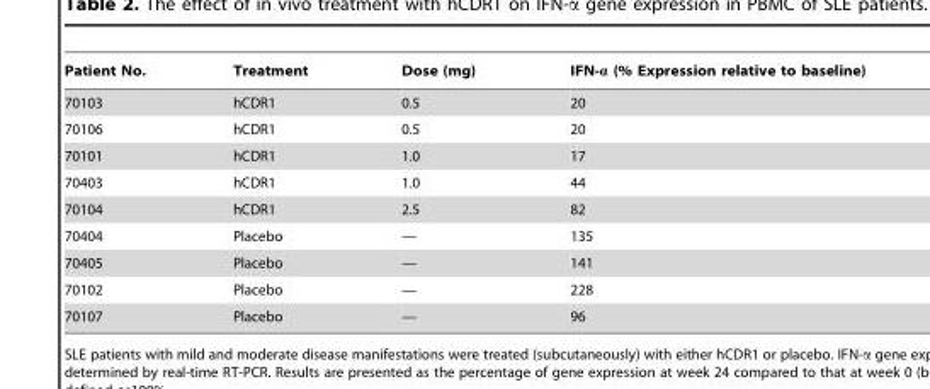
<table><thead><tr><td>Patient No.</td><td>Treatment</td><td>Dose (mg)</td><td>IFN-α (% Expression relative to baseline)</td></tr></thead><tbody><tr><td>70103</td><td>hCDR1</td><td>0.5</td><td>20</td></tr><tr><td>70106</td><td>hCDR1</td><td>0.5</td><td>20</td></tr><tr><td>70101</td><td>hCDR1</td><td>1.0</td><td>17</td></tr><tr><td>70403</td><td>hCDR1</td><td>1.0</td><td>44</td></tr><tr><td>70104</td><td>hCDR1</td><td>2.5</td><td>82</td></tr><tr><td>70404</td><td>Placebo</td><td>—</td><td>135</td></tr><tr><td>70405</td><td>Placebo</td><td>—</td><td>141</td></tr><tr><td>70102</td><td>Placebo</td><td>—</td><td>228</td></tr><tr><td>70107</td><td>Placebo</td><td>—</td><td>96</td></tr></tbody></table>